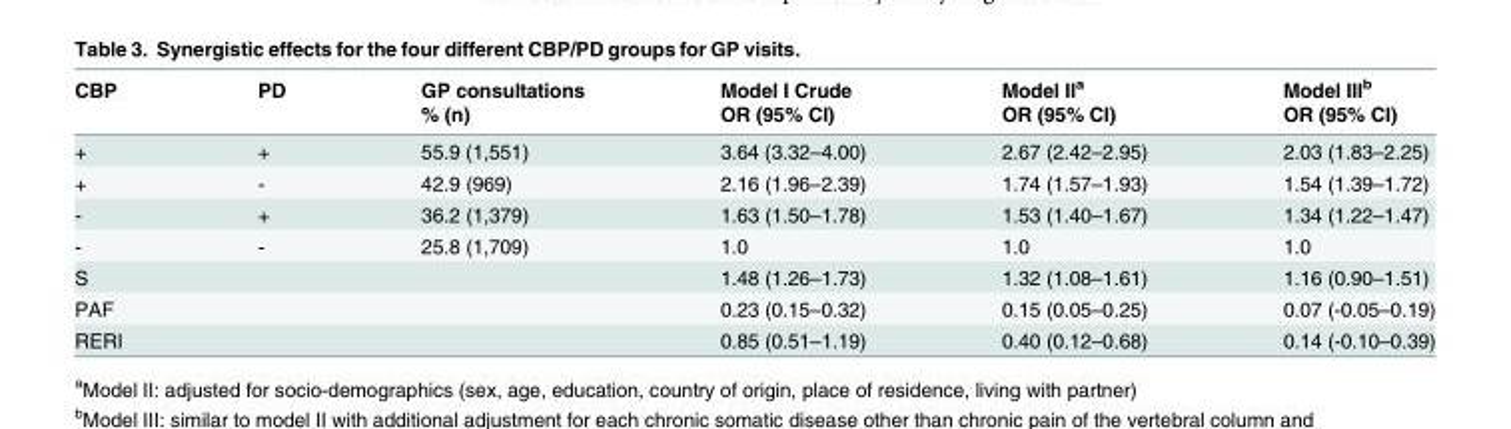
<table><thead><tr><td rowspan="2">CBP</td><td rowspan="2">PD</td><td rowspan="2">GP consultations % (n)</td><td rowspan="2">Model I Crude OR (95% CI)</td><td rowspan="2">Model II<sup>a</sup> OR (95% CI)</td><td rowspan="2">Model III<sup>b</sup> OR (95% CI)</td></tr><tr></tr></thead><tbody><tr><td>+</td><td>+</td><td>55.9 (1,551)</td><td>3.64 (3.32–4.00)</td><td>2.67 (2.42–2.95)</td><td>2.03 (1.83–2.25)</td></tr><tr><td>+</td><td>-</td><td>42.9 (969)</td><td>2.16 (1.96–2.39)</td><td>1.74 (1.57–1.93)</td><td>1.54 (1.39–1.72)</td></tr><tr><td>-</td><td>+</td><td>36.2 (1,379)</td><td>1.63 (1.50–1.78)</td><td>1.53 (1.40–1.67)</td><td>1.34 (1.22–1.47)</td></tr><tr><td>-</td><td>-</td><td>25.8 (1,709)</td><td>1.0</td><td>1.0</td><td>1.0</td></tr><tr><td>S</td><td></td><td></td><td>1.48 (1.26–1.73)</td><td>1.32 (1.08–1.61)</td><td>1.16 (0.90–1.51)</td></tr><tr><td>PAF</td><td></td><td></td><td>0.23 (0.15–0.32)</td><td>0.15 (0.05–0.25)</td><td>0.07 (-0.05–0.19)</td></tr><tr><td>RERI</td><td></td><td></td><td>0.85 (0.51–1.19)</td><td>0.40 (0.12–0.68)</td><td>0.14 (-0.10–0.39)</td></tr></tbody></table>